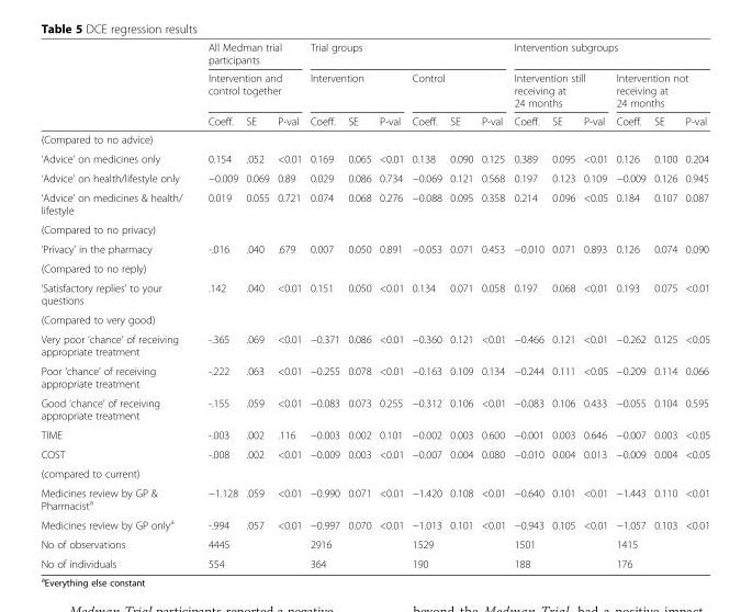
<table><thead><tr><td rowspan="3"></td><td rowspan="2" colspan="3">All Medman trial participants Intervention and control together</td><td colspan="6">Trial groups</td><td colspan="6">Intervention subgroups</td></tr><tr><td colspan="3">Intervention</td><td colspan="3">Control</td><td colspan="3">Intervention still receiving at 24 months</td><td colspan="3">Intervention not receiving at 24 months</td></tr><tr><td>Coeff.</td><td>SE</td><td>P-val</td><td>Coeff.</td><td>SE</td><td>P-val</td><td>Coeff.</td><td>SE</td><td>P-val</td><td>Coeff.</td><td>SE</td><td>P-val</td><td>Coeff.</td><td>SE</td><td>P-val</td></tr></thead><tbody><tr><td colspan="16">(Compared to no advice)</td></tr><tr><td>‘Advice’ on medicines only</td><td>0.154</td><td>.052</td><td>&lt;0.01</td><td>0.169</td><td>0.065</td><td>&lt;0.01</td><td>0.138</td><td>0.090</td><td>0.125</td><td>0.389</td><td>0.095</td><td>&lt;0.01</td><td>0.126</td><td>0.100</td><td>0.204</td></tr><tr><td>‘Advice’ on health/lifestyle only</td><td>−0.009</td><td>0.069</td><td>0.89</td><td>0.029</td><td>0.086</td><td>0.734</td><td>−0.069</td><td>0.121</td><td>0.568</td><td>0.197</td><td>0.123</td><td>0.109</td><td>−0.009</td><td>0.126</td><td>0.945</td></tr><tr><td>‘Advice’ on medicines &amp; health/ lifestyle</td><td>0.019</td><td>0.055</td><td>0.721</td><td>0.074</td><td>0.068</td><td>0.276</td><td>−0.088</td><td>0.095</td><td>0.358</td><td>0.214</td><td>0.096</td><td>&lt;0.05</td><td>0.184</td><td>0.107</td><td>0.087</td></tr><tr><td colspan="16">(Compared to no privacy)</td></tr><tr><td>‘Privacy’ in the pharmacy</td><td>-.016</td><td>.040</td><td>.679</td><td>0.007</td><td>0.050</td><td>0.891</td><td>−0.053</td><td>0.071</td><td>0.453</td><td>−0.010</td><td>0.071</td><td>0.893</td><td>0.126</td><td>0.074</td><td>0.090</td></tr><tr><td colspan="16">(Compared to no reply)</td></tr><tr><td>‘Satisfactory replies’ to your questions</td><td>.142</td><td>.040</td><td>&lt;0.01</td><td>0.151</td><td>0.050</td><td>&lt;0.01</td><td>0.134</td><td>0.071</td><td>0.058</td><td>0.197</td><td>0.068</td><td>&lt;0.01</td><td>0.193</td><td>0.075</td><td>&lt;0.01</td></tr><tr><td colspan="16">(Compared to very good)</td></tr><tr><td>Very poor ‘chance’ of receiving appropriate treatment</td><td>-.365</td><td>.069</td><td>&lt;0.01</td><td>−0.371</td><td>0.086</td><td>&lt;0.01</td><td>−0.360</td><td>0.121</td><td>&lt;0.01</td><td>−0.466</td><td>0.121</td><td>&lt;0.01</td><td>−0.262</td><td>0.125</td><td>&lt;0.05</td></tr><tr><td>Poor ‘chance’ of receiving appropriate treatment</td><td>-.222</td><td>.063</td><td>&lt;0.01</td><td>−0.255</td><td>0.078</td><td>&lt;0.01</td><td>−0.163</td><td>0.109</td><td>0.134</td><td>−0.244</td><td>0.111</td><td>&lt;0.05</td><td>−0.209</td><td>0.114</td><td>0.066</td></tr><tr><td>Good ‘chance’ of receiving appropriate treatment</td><td>-.155</td><td>.059</td><td>&lt;0.01</td><td>−0.083</td><td>0.073</td><td>0.255</td><td>−0.312</td><td>0.106</td><td>&lt;0.01</td><td>−0.083</td><td>0.106</td><td>0.433</td><td>−0.055</td><td>0.104</td><td>0.595</td></tr><tr><td>TIME</td><td>-.003</td><td>.002</td><td>.116</td><td>−0.003</td><td>0.002</td><td>0.101</td><td>−0.002</td><td>0.003</td><td>0.600</td><td>−0.001</td><td>0.003</td><td>0.646</td><td>−0.007</td><td>0.003</td><td>&lt;0.05</td></tr><tr><td>COST</td><td>-.008</td><td>.002</td><td>&lt;0.01</td><td>−0.009</td><td>0.003</td><td>&lt;0.01</td><td>−0.007</td><td>0.004</td><td>0.080</td><td>−0.010</td><td>0.004</td><td>0.013</td><td>−0.009</td><td>0.004</td><td>&lt;0.05</td></tr><tr><td colspan="16">(compared to current)</td></tr><tr><td>Medicines review by GP &amp; Pharmacist<sup>a</sup></td><td>−1.128</td><td>.059</td><td>&lt;0.01</td><td>−0.990</td><td>0.071</td><td>&lt;0.01</td><td>−1.420</td><td>0.108</td><td>&lt;0.01</td><td>−0.640</td><td>0.101</td><td>&lt;0.01</td><td>−1.443</td><td>0.110</td><td>&lt;0.01</td></tr><tr><td>Medicines review by GP only<sup>a</sup></td><td>-.994</td><td>.057</td><td>&lt;0.01</td><td>−0.997</td><td>0.070</td><td>&lt;0.01</td><td>−1.013</td><td>0.101</td><td>&lt;0.01</td><td>−0.943</td><td>0.105</td><td>&lt;0.01</td><td>−1.057</td><td>0.103</td><td>&lt;0.01</td></tr><tr><td>No of observations</td><td colspan="3">4445</td><td colspan="3">2916</td><td colspan="3">1529</td><td colspan="3">1501</td><td colspan="3">1415</td></tr><tr><td>No of individuals</td><td colspan="3">554</td><td colspan="3">364</td><td colspan="3">190</td><td colspan="3">188</td><td colspan="3">176</td></tr></tbody></table>